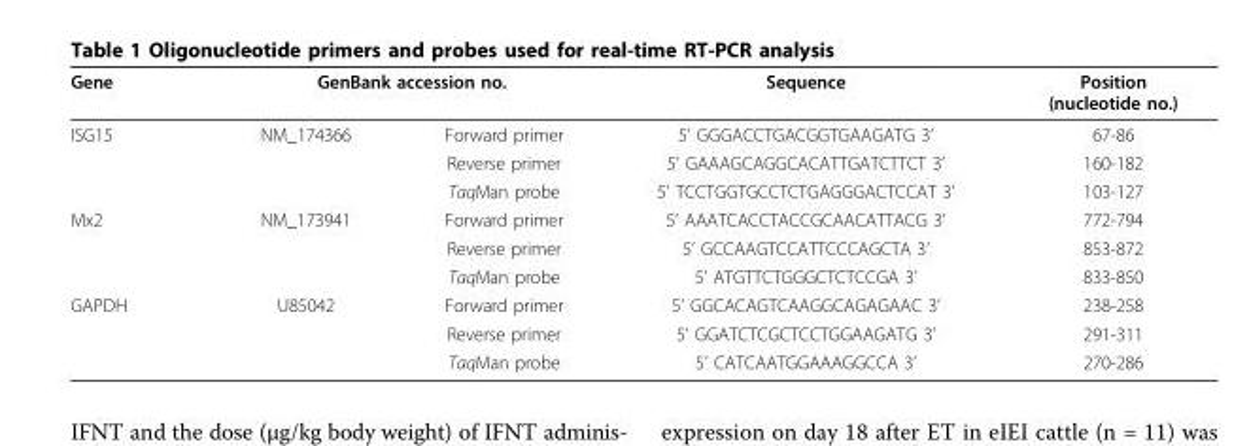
<table><thead><tr><td rowspan="2">Gene ISG15</td><td colspan="2">GenBank accession no.</td><td rowspan="2">Sequence 5’ GGGACCTGACGGTGAAGATG 3’</td><td rowspan="2">Position (nucleotide no.) 67-86</td></tr><tr><td>NM_174366</td><td>Forward primer</td></tr></thead><tbody><tr><td></td><td></td><td>Reverse primer</td><td>5’ GAAAGCAGGCACATTGATCTTCT 3’</td><td>160-182</td></tr><tr><td></td><td></td><td>TaqMan probe</td><td>5’ TCCTGGTGCCTCTGAGGGACTCCAT 3’</td><td>103-127</td></tr><tr><td rowspan="3">Mx2</td><td>NM_173941</td><td>Forward primer</td><td>5’ AAATCACCTACCGCAACATTACG 3’</td><td>772-794</td></tr><tr><td></td><td>Reverse primer</td><td>5’ GCCAAGTCCATTCCCAGCTA 3’</td><td>853-872</td></tr><tr><td></td><td>TaqMan probe</td><td>5’ ATGTTCTGGGCTCTCCGA 3’</td><td>833-850</td></tr><tr><td rowspan="3">GAPDH</td><td>U85042</td><td>Forward primer</td><td>5’ GGCACAGTCAAGGCAGAGAAC 3’</td><td>238-258</td></tr><tr><td></td><td>Reverse primer</td><td>5’ GGATCTCGCTCCTGGAAGATG 3’</td><td>291-311</td></tr><tr><td></td><td>TaqMan probe</td><td>5’ CATCAATGGAAAGGCCA 3’</td><td>270-286</td></tr></tbody></table>